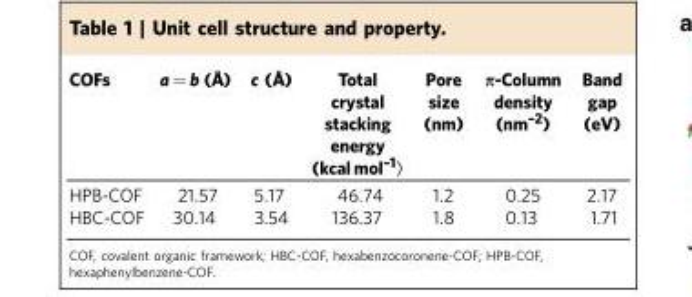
<table><thead><tr><td>COFs</td><td>a = b (Å)</td><td>c (Å)</td><td>Total crystal stacking energy (kcal mol<sup>–1</sup>)</td><td>Pore size (nm)</td><td>π-Column density (nm<sup>–2</sup>)</td><td>Band gap (eV)</td></tr></thead><tbody><tr><td>HPB-COF</td><td>21.57</td><td>5.17</td><td>46.74</td><td>1.2</td><td>0.25</td><td>2.17</td></tr><tr><td>HBC-COF</td><td>30.14</td><td>3.54</td><td>136.37</td><td>1.8</td><td>0.13</td><td>1.71</td></tr></tbody></table>